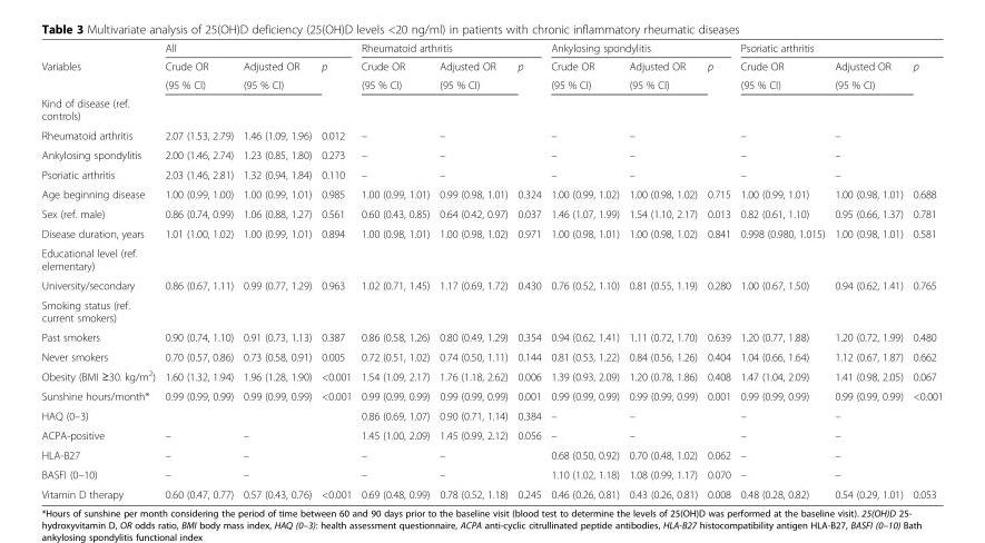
<table><thead><tr><td rowspan="3">Variables</td><td colspan="3">All</td><td colspan="3">Rheumatoid arthritis</td><td colspan="3">Ankylosing spondylitis</td><td colspan="3">Psoriatic arthritis</td></tr><tr><td rowspan="2">Crude OR (95 % CI)</td><td rowspan="2">Adjusted OR (95 % CI)</td><td rowspan="2">p</td><td rowspan="2">Crude OR (95 % CI)</td><td rowspan="2">Adjusted OR (95 % CI)</td><td rowspan="2">p</td><td rowspan="2">Crude OR (95 % CI)</td><td rowspan="2">Adjusted OR (95 % CI)</td><td rowspan="2">p</td><td rowspan="2">Crude OR (95 % CI)</td><td rowspan="2">Adjusted OR (95 % CI)</td><td rowspan="2">p</td></tr><tr></tr></thead><tbody><tr><td colspan="13">Kind of disease (ref. controls)</td></tr><tr><td>Rheumatoid arthritis</td><td>2.07 (1.53, 2.79)</td><td>1.46 (1.09, 1.96)</td><td>0.012</td><td>–</td><td>–</td><td></td><td>–</td><td>–</td><td></td><td>–</td><td>–</td><td></td></tr><tr><td>Ankylosing spondylitis</td><td>2.00 (1.46, 2.74)</td><td>1.23 (0.85, 1.80)</td><td>0.273</td><td>–</td><td>–</td><td></td><td>–</td><td>–</td><td></td><td>–</td><td>–</td><td></td></tr><tr><td>Psoriatic arthritis</td><td>2.03 (1.46, 2.81)</td><td>1.32 (0.94, 1.84)</td><td>0.110</td><td>–</td><td>–</td><td></td><td>–</td><td>–</td><td></td><td>–</td><td>–</td><td></td></tr><tr><td>Age beginning disease</td><td>1.00 (0.99, 1.00)</td><td>1.00 (0.99, 1.01)</td><td>0.985</td><td>1.00 (0.99, 1.01)</td><td>0.99 (0.98, 1.01)</td><td>0.324</td><td>1.00 (0.99, 1.02)</td><td>1.00 (0.98, 1.02)</td><td>0.715</td><td>1.00 (0.99, 1.01)</td><td>1.00 (0.98, 1.01)</td><td>0.688</td></tr><tr><td>Sex (ref. male)</td><td>0.86 (0.74, 0.99)</td><td>1.06 (0.88, 1.27)</td><td>0.561</td><td>0.60 (0.43, 0.85)</td><td>0.64 (0.42, 0.97)</td><td>0.037</td><td>1.46 (1.07, 1.99)</td><td>1.54 (1.10, 2.17)</td><td>0.013</td><td>0.82 (0.61, 1.10)</td><td>0.95 (0.66, 1.37)</td><td>0.781</td></tr><tr><td>Disease duration, years</td><td>1.01 (1.00, 1.02)</td><td>1.00 (0.99, 1.01)</td><td>0.894</td><td>1.00 (0.98, 1.01)</td><td>1.00 (0.98, 1.02)</td><td>0.971</td><td>1.00 (0.98, 1.01)</td><td>1.00 (0.98, 1.02)</td><td>0.841</td><td>0.998 (0.980, 1.015)</td><td>1.00 (0.98, 1.01)</td><td>0.581</td></tr><tr><td colspan="13">Educational level (ref. elementary)</td></tr><tr><td>University/secondary</td><td>0.86 (0.67, 1.11)</td><td>0.99 (0.77, 1.29)</td><td>0.963</td><td>1.02 (0.71, 1.45)</td><td>1.17 (0.69, 1.72)</td><td>0.430</td><td>0.76 (0.52, 1.10)</td><td>0.81 (0.55, 1.19)</td><td>0.280</td><td>1.00 (0.67, 1.50)</td><td>0.94 (0.62, 1.41)</td><td>0.765</td></tr><tr><td colspan="13">Smoking status (ref. current smokers)</td></tr><tr><td>Past smokers</td><td>0.90 (0.74, 1.10)</td><td>0.91 (0.73, 1.13)</td><td>0.387</td><td>0.86 (0.58, 1.26)</td><td>0.80 (0.49, 1.29)</td><td>0.354</td><td>0.94 (0.62, 1.41)</td><td>1.11 (0.72, 1.70)</td><td>0.639</td><td>1.20 (0.77, 1.88)</td><td>1.20 (0.72, 1.99)</td><td>0.480</td></tr><tr><td>Never smokers</td><td>0.70 (0.57, 0.86)</td><td>0.73 (0.58, 0.91)</td><td>0.005</td><td>0.72 (0.51, 1.02)</td><td>0.74 (0.50, 1.11)</td><td>0.144</td><td>0.81 (0.53, 1.22)</td><td>0.84 (0.56, 1.26)</td><td>0.404</td><td>1.04 (0.66, 1.64)</td><td>1.12 (0.67, 1.87)</td><td>0.662</td></tr><tr><td>Obesity (BMI ≥30. kg/m<sup>2</sup>)</td><td>1.60 (1.32, 1.94)</td><td>1.96 (1.28, 1.90)</td><td>&lt;0.001</td><td>1.54 (1.09, 2.17)</td><td>1.76 (1.18, 2.62)</td><td>0.006</td><td>1.39 (0.93, 2.09)</td><td>1.20 (0.78, 1.86)</td><td>0.408</td><td>1.47 (1.04, 2.09)</td><td>1.41 (0.98, 2.05)</td><td>0.067</td></tr><tr><td>Sunshine hours/month*</td><td>0.99 (0.99, 0.99)</td><td>0.99 (0.99, 0.99)</td><td>&lt;0.001</td><td>0.99 (0.99, 0.99)</td><td>0.99 (0.99, 0.99)</td><td>0.001</td><td>0.99 (0.99, 0.99)</td><td>0.99 (0.99, 0.99)</td><td>0.001</td><td>0.99 (0.99, 0.99)</td><td>0.99 (0.99, 0.99)</td><td>&lt;0.001</td></tr><tr><td>HAQ (0–3)</td><td></td><td></td><td></td><td>0.86 (0.69, 1.07)</td><td>0.90 (0.71, 1.14)</td><td>0.384</td><td>–</td><td>–</td><td></td><td>–</td><td>–</td><td></td></tr><tr><td>ACPA-positive</td><td>–</td><td>–</td><td></td><td>1.45 (1.00, 2.09)</td><td>1.45 (0.99, 2.12)</td><td>0.056</td><td>–</td><td>–</td><td></td><td>–</td><td>–</td><td></td></tr><tr><td>HLA-B27</td><td>–</td><td>–</td><td></td><td>–</td><td>–</td><td></td><td>0.68 (0.50, 0.92)</td><td>0.70 (0.48, 1.02)</td><td>0.062</td><td>–</td><td>–</td><td></td></tr><tr><td>BASFI (0–10)</td><td>–</td><td>–</td><td></td><td>–</td><td>–</td><td></td><td>1.10 (1.02, 1.18)</td><td>1.08 (0.99, 1.17)</td><td>0.070</td><td>–</td><td>–</td><td></td></tr><tr><td>Vitamin D therapy</td><td>0.60 (0.47, 0.77)</td><td>0.57 (0.43, 0.76)</td><td>&lt;0.001</td><td>0.69 (0.48, 0.99)</td><td>0.78 (0.52, 1.18)</td><td>0.245</td><td>0.46 (0.26, 0.81)</td><td>0.43 (0.26, 0.81)</td><td>0.008</td><td>0.48 (0.28, 0.82)</td><td>0.54 (0.29, 1.01)</td><td>0.053</td></tr></tbody></table>